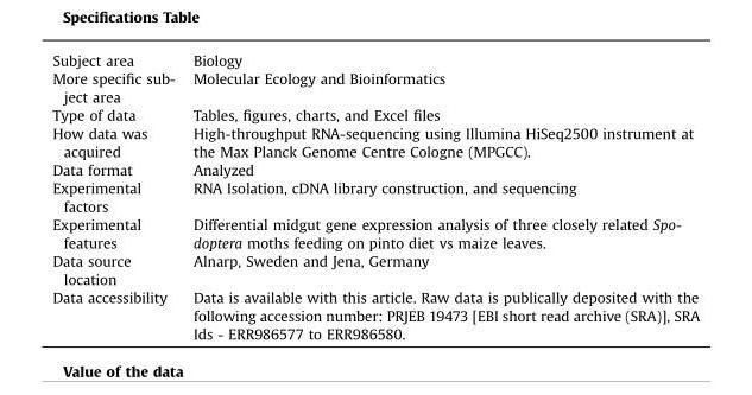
<table><tbody><tr><td>Subject area</td><td>Biology</td></tr><tr><td>More specific sub- ject area</td><td>Molecular Ecology and Bioinformatics</td></tr><tr><td>Type of data</td><td>Tables, figures, charts, and Excel files</td></tr><tr><td>How data was acquired</td><td>High-throughput RNA-sequencing using Illumina HiSeq2500 instrument at the Max Planck Genome Centre Cologne (MPGCC).</td></tr><tr><td>Data format</td><td>Analyzed</td></tr><tr><td>Experimental factors</td><td>RNA Isolation, cDNA library construction, and sequencing</td></tr><tr><td>Experimental features</td><td>Differential midgut gene expression analysis of three closely related Spo- doptera moths feeding on pinto diet vs maize leaves.</td></tr><tr><td>Data source location</td><td>Alnarp, Sweden and Jena, Germany</td></tr><tr><td>Data accessibility</td><td>Data is available with this article. Raw data is publically deposited with the following accession number: PRJEB 19473 [EBI short read archive (SRA)], SRA Ids - ERR986577 to ERR986580.</td></tr></tbody></table>